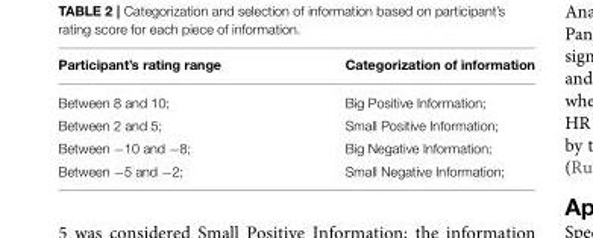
<table><thead><tr><td>Participant’s rating range</td><td>Categorization of information</td></tr></thead><tbody><tr><td>Between 8 and 10;</td><td>Big Positive Information;</td></tr><tr><td>Between 2 and 5;</td><td>Small Positive Information;</td></tr><tr><td>Between −10 and −8;</td><td>Big Negative Information;</td></tr><tr><td>Between −5 and −2;</td><td>Small Negative Information;</td></tr></tbody></table>